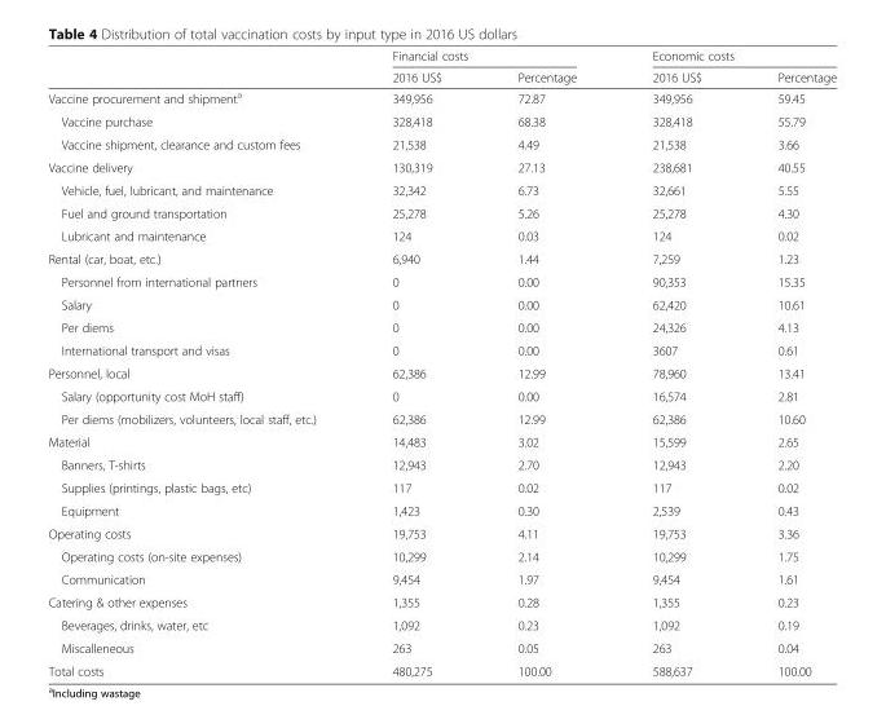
<table><thead><tr><td rowspan="2"></td><td colspan="2">Financial costs</td><td colspan="2">Economic costs</td></tr><tr><td>2016 US$</td><td>Percentage</td><td>2016 US$</td><td>Percentage</td></tr></thead><tbody><tr><td>Vaccine procurement and shipment<sup>a</sup></td><td>349,956</td><td>72.87</td><td>349,956</td><td>59.45</td></tr><tr><td>Vaccine purchase</td><td>328,418</td><td>68.38</td><td>328,418</td><td>55.79</td></tr><tr><td>Vaccine shipment, clearance and custom fees</td><td>21,538</td><td>4.49</td><td>21,538</td><td>3.66</td></tr><tr><td>Vaccine delivery</td><td>130,319</td><td>27.13</td><td>238,681</td><td>40.55</td></tr><tr><td>Vehicle, fuel, lubricant, and maintenance</td><td>32,342</td><td>6.73</td><td>32,661</td><td>5.55</td></tr><tr><td>Fuel and ground transportation</td><td>25,278</td><td>5.26</td><td>25,278</td><td>4.30</td></tr><tr><td>Lubricant and maintenance</td><td>124</td><td>0.03</td><td>124</td><td>0.02</td></tr><tr><td>Rental (car, boat, etc.)</td><td>6,940</td><td>1.44</td><td>7,259</td><td>1.23</td></tr><tr><td>Personnel from international partners</td><td>0</td><td>0.00</td><td>90,353</td><td>15.35</td></tr><tr><td>Salary</td><td>0</td><td>0.00</td><td>62,420</td><td>10.61</td></tr><tr><td>Per diems</td><td>0</td><td>0.00</td><td>24,326</td><td>4.13</td></tr><tr><td>International transport and visas</td><td>0</td><td>0.00</td><td>3607</td><td>0.61</td></tr><tr><td>Personnel, local</td><td>62,386</td><td>12.99</td><td>78,960</td><td>13.41</td></tr><tr><td>Salary (opportunity cost MoH staff)</td><td>0</td><td>0.00</td><td>16,574</td><td>2.81</td></tr><tr><td>Per diems (mobilizers, volunteers, local staff, etc.)</td><td>62,386</td><td>12.99</td><td>62,386</td><td>10.60</td></tr><tr><td>Material</td><td>14,483</td><td>3.02</td><td>15,599</td><td>2.65</td></tr><tr><td>Banners, T-shirts</td><td>12,943</td><td>2.70</td><td>12,943</td><td>2.20</td></tr><tr><td>Supplies (printings, plastic bags, etc)</td><td>117</td><td>0.02</td><td>117</td><td>0.02</td></tr><tr><td>Equipment</td><td>1,423</td><td>0.30</td><td>2,539</td><td>0.43</td></tr><tr><td>Operating costs</td><td>19,753</td><td>4.11</td><td>19,753</td><td>3.36</td></tr><tr><td>Operating costs (on-site expenses)</td><td>10,299</td><td>2.14</td><td>10,299</td><td>1.75</td></tr><tr><td>Communication</td><td>9,454</td><td>1.97</td><td>9,454</td><td>1.61</td></tr><tr><td>Catering &amp; other expenses</td><td>1,355</td><td>0.28</td><td>1,355</td><td>0.23</td></tr><tr><td>Beverages, drinks, water, etc</td><td>1,092</td><td>0.23</td><td>1,092</td><td>0.19</td></tr><tr><td>Miscalleneous</td><td>263</td><td>0.05</td><td>263</td><td>0.04</td></tr><tr><td>Total costs</td><td>480,275</td><td>100.00</td><td>588,637</td><td>100.00</td></tr></tbody></table>